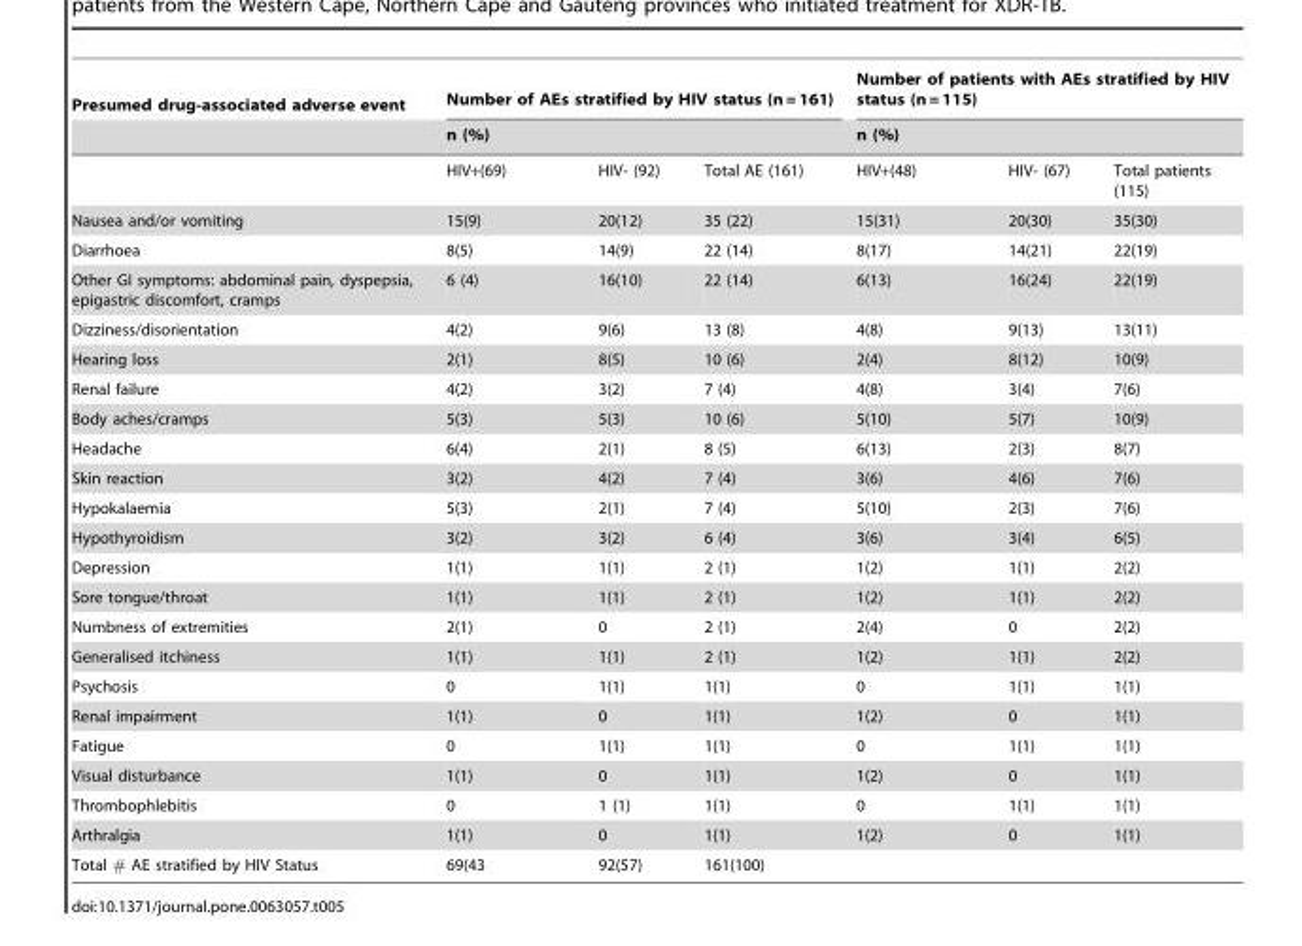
<table><thead><tr><td rowspan="3">Presumed drug-associated adverse event</td><td rowspan="2" colspan="3">Number of AEs stratified by HIV status (n = 161) n (%)</td><td rowspan="2" colspan="3">Number of patients with AEs stratified by HIV status (n = 115) n (%)</td></tr><tr></tr><tr><td>HIV+(69)</td><td>HIV- (92)</td><td>Total AE (161)</td><td>HIV+(48)</td><td>HIV- (67)</td><td>Total patients (115)</td></tr></thead><tbody><tr><td>Nausea and/or vomiting</td><td>15(9)</td><td>20(12)</td><td>35 (22)</td><td>15(31)</td><td>20(30)</td><td>35(30)</td></tr><tr><td>Diarrhoea</td><td>8(5)</td><td>14(9)</td><td>22 (14)</td><td>8(17)</td><td>14(21)</td><td>22(19)</td></tr><tr><td>Other GI symptoms: abdominal pain, dyspepsia, epigastric discomfort, cramps</td><td>6 (4)</td><td>16(10)</td><td>22 (14)</td><td>6(13)</td><td>16(24)</td><td>22(19)</td></tr><tr><td>Dizziness/disorientation</td><td>4(2)</td><td>9(6)</td><td>13 (8)</td><td>4(8)</td><td>9(13)</td><td>13(11)</td></tr><tr><td>Hearing loss</td><td>2(1)</td><td>8(5)</td><td>10 (6)</td><td>2(4)</td><td>8(12)</td><td>10(9)</td></tr><tr><td>Renal failure</td><td>4(2)</td><td>3(2)</td><td>7 (4)</td><td>4(8)</td><td>3(4)</td><td>7(6)</td></tr><tr><td>Body aches/cramps</td><td>5(3)</td><td>5(3)</td><td>10 (6)</td><td>5(10)</td><td>5(7)</td><td>10(9)</td></tr><tr><td>Headache</td><td>6(4)</td><td>2(1)</td><td>8 (5)</td><td>6(13)</td><td>2(3)</td><td>8(7)</td></tr><tr><td>Skin reaction</td><td>3(2)</td><td>4(2)</td><td>7 (4)</td><td>3(6)</td><td>4(6)</td><td>7(6)</td></tr><tr><td>Hypokalaemia</td><td>5(3)</td><td>2(1)</td><td>7 (4)</td><td>5(10)</td><td>2(3)</td><td>7(6)</td></tr><tr><td>Hypothyroidism</td><td>3(2)</td><td>3(2)</td><td>6 (4)</td><td>3(6)</td><td>3(4)</td><td>6(5)</td></tr><tr><td>Depression</td><td>1(1)</td><td>1(1)</td><td>2 (1)</td><td>1(2)</td><td>1(1)</td><td>2(2)</td></tr><tr><td>Sore tongue/throat</td><td>1(1)</td><td>1(1)</td><td>2 (1)</td><td>1(2)</td><td>1(1)</td><td>2(2)</td></tr><tr><td>Numbness of extremities</td><td>2(1)</td><td>0</td><td>2 (1)</td><td>2(4)</td><td>0</td><td>2(2)</td></tr><tr><td>Generalised itchiness</td><td>1(1)</td><td>1(1)</td><td>2 (1)</td><td>1(2)</td><td>1(1)</td><td>2(2)</td></tr><tr><td>Psychosis</td><td>0</td><td>1(1)</td><td>1(1)</td><td>0</td><td>1(1)</td><td>1(1)</td></tr><tr><td>Renal impairment</td><td>1(1)</td><td>0</td><td>1(1)</td><td>1(2)</td><td>0</td><td>1(1)</td></tr><tr><td>Fatigue</td><td>0</td><td>1(1)</td><td>1(1)</td><td>0</td><td>1(1)</td><td>1(1)</td></tr><tr><td>Visual disturbance</td><td>1(1)</td><td>0</td><td>1(1)</td><td>1(2)</td><td>0</td><td>1(1)</td></tr><tr><td>Thrombophlebitis</td><td>0</td><td>1 (1)</td><td>1(1)</td><td>0</td><td>1(1)</td><td>1(1)</td></tr><tr><td>Arthralgia</td><td>1(1)</td><td>0</td><td>1(1)</td><td>1(2)</td><td>0</td><td>1(1)</td></tr><tr><td>Total # AE stratified by HIV Status</td><td>69(43</td><td>92(57)</td><td>161(100)</td><td colspan="3"></td></tr></tbody></table>